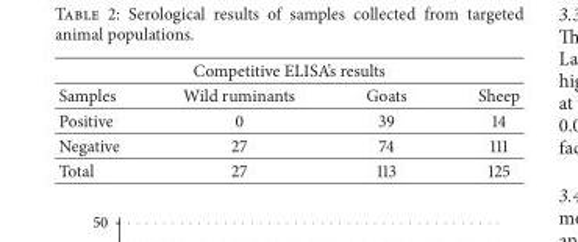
<table><thead><tr><td colspan="4">Competitive ELISA’s results</td></tr><tr><td>Samples</td><td>Wild ruminants</td><td>Goats</td><td>Sheep</td></tr></thead><tbody><tr><td>Positive</td><td>0</td><td>39</td><td>14</td></tr><tr><td>Negative</td><td>27</td><td>74</td><td>111</td></tr><tr><td>Total</td><td>27</td><td>113</td><td>125</td></tr></tbody></table>